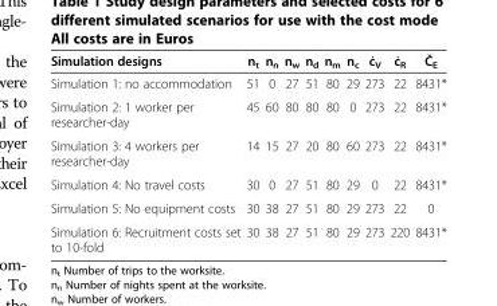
<table><thead><tr><td>Simulation designs</td><td>n<sub>t</sub></td><td>n<sub>n</sub></td><td>n<sub>w</sub></td><td>n<sub>d</sub></td><td>n<sub>m</sub></td><td>n<sub>c</sub></td><td>ċ<sub>V</sub></td><td>ċ<sub>R</sub></td><td>Č<sub>E</sub></td></tr></thead><tbody><tr><td>Simulation 1: no accommodation</td><td>51</td><td>0</td><td>27</td><td>51</td><td>80</td><td>29</td><td>273</td><td>22</td><td>8431*</td></tr><tr><td>Simulation 2: 1 worker per researcher-day</td><td>45</td><td>60</td><td>80</td><td>80</td><td>80</td><td>0</td><td>273</td><td>22</td><td>8431*</td></tr><tr><td>Simulation 3: 4 workers per researcher-day</td><td>14</td><td>15</td><td>27</td><td>20</td><td>80</td><td>60</td><td>273</td><td>22</td><td>8431*</td></tr><tr><td>Simulation 4: No travel costs</td><td>30</td><td>0</td><td>27</td><td>51</td><td>80</td><td>29</td><td>0</td><td>22</td><td>8431*</td></tr><tr><td>Simulation 5: No equipment costs</td><td>30</td><td>38</td><td>27</td><td>51</td><td>80</td><td>29</td><td>273</td><td>22</td><td>0</td></tr><tr><td>Simulation 6: Recruitment costs set to 10-fold</td><td>30</td><td>38</td><td>27</td><td>51</td><td>80</td><td>29</td><td>273</td><td>220</td><td>8431*</td></tr></tbody></table>